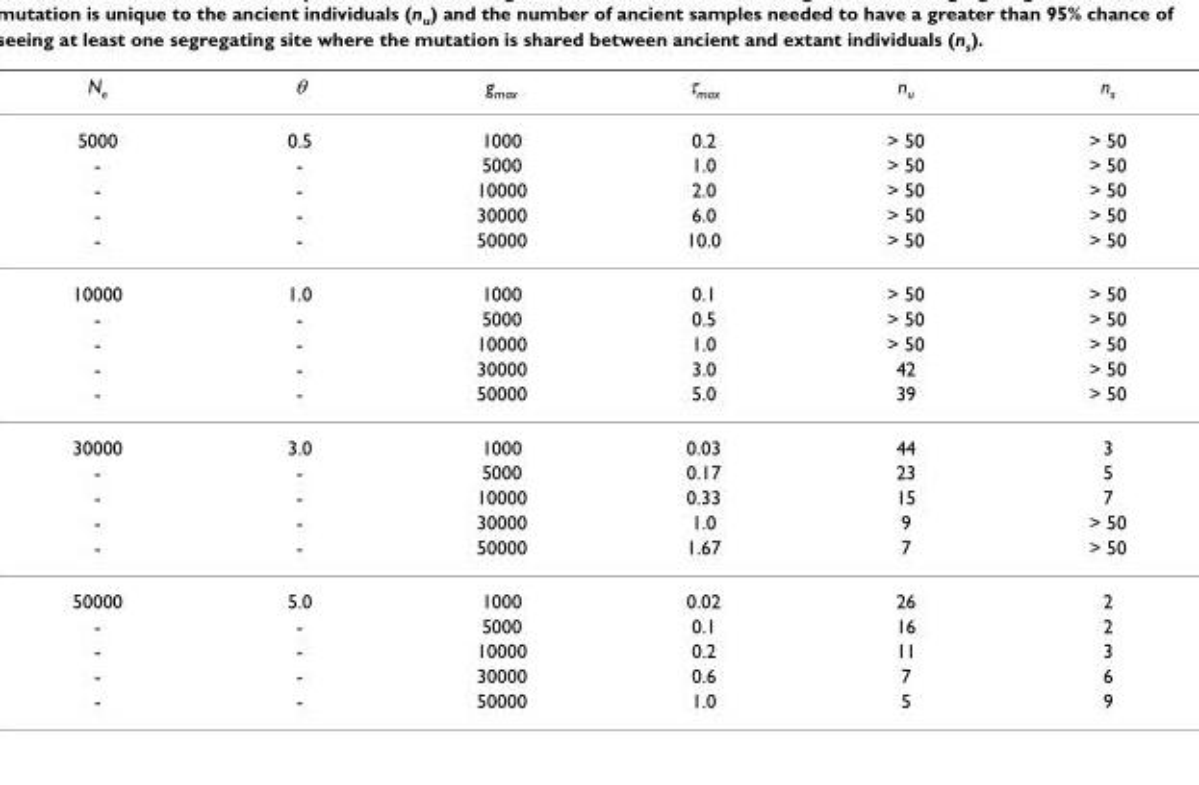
<table><thead><tr><td>N<sub>e</sub></td><td>θ</td><td>g<sub>max</sub></td><td>τ<sub>max</sub></td><td>n<sub>u</sub></td><td>n<sub>s</sub></td></tr></thead><tbody><tr><td>5000</td><td>0.5</td><td>1000</td><td>0.2</td><td>&gt; 50</td><td>&gt; 50</td></tr><tr><td>-</td><td>-</td><td>5000</td><td>1.0</td><td>&gt; 50</td><td>&gt; 50</td></tr><tr><td>-</td><td>-</td><td>10000</td><td>2.0</td><td>&gt; 50</td><td>&gt; 50</td></tr><tr><td>-</td><td>-</td><td>30000</td><td>6.0</td><td>&gt; 50</td><td>&gt; 50</td></tr><tr><td>-</td><td>-</td><td>50000</td><td>10.0</td><td>&gt; 50</td><td>&gt; 50</td></tr><tr><td>10000</td><td>1.0</td><td>1000</td><td>0.1</td><td>&gt; 50</td><td>&gt; 50</td></tr><tr><td>-</td><td>-</td><td>5000</td><td>0.5</td><td>&gt; 50</td><td>&gt; 50</td></tr><tr><td>-</td><td>-</td><td>10000</td><td>1.0</td><td>&gt; 50</td><td>&gt; 50</td></tr><tr><td>-</td><td>-</td><td>30000</td><td>3.0</td><td>42</td><td>&gt; 50</td></tr><tr><td>-</td><td>-</td><td>50000</td><td>5.0</td><td>39</td><td>&gt; 50</td></tr><tr><td>30000</td><td>3.0</td><td>1000</td><td>0.03</td><td>44</td><td>3</td></tr><tr><td>-</td><td>-</td><td>5000</td><td>0.17</td><td>23</td><td>5</td></tr><tr><td>-</td><td>-</td><td>10000</td><td>0.33</td><td>15</td><td>7</td></tr><tr><td>-</td><td>-</td><td>30000</td><td>1.0</td><td>9</td><td>&gt; 50</td></tr><tr><td>-</td><td>-</td><td>50000</td><td>1.67</td><td>7</td><td>&gt; 50</td></tr><tr><td>50000</td><td>5.0</td><td>1000</td><td>0.02</td><td>26</td><td>2</td></tr><tr><td>-</td><td>-</td><td>5000</td><td>0.1</td><td>16</td><td>2</td></tr><tr><td>-</td><td>-</td><td>10000</td><td>0.2</td><td>11</td><td>3</td></tr><tr><td>-</td><td>-</td><td>30000</td><td>0.6</td><td>7</td><td>6</td></tr><tr><td>-</td><td>-</td><td>50000</td><td>1.0</td><td>5</td><td>9</td></tr></tbody></table>